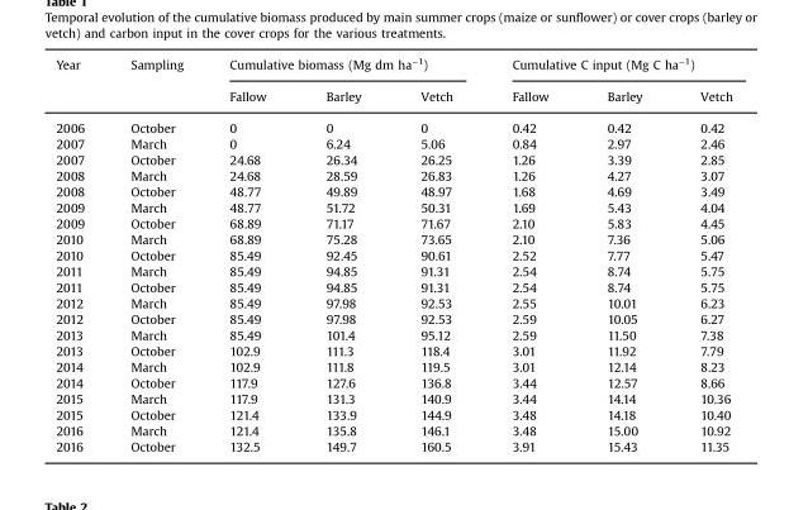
<table><thead><tr><td rowspan="2">Year</td><td rowspan="2">Sampling</td><td colspan="3">Cumulative biomass (Mg dm ha<sup>−1</sup>)</td><td colspan="3">Cumulative C input (Mg C ha<sup>−1</sup>)</td></tr><tr><td>Fallow</td><td>Barley</td><td>Vetch</td><td>Fallow</td><td>Barley</td><td>Vetch</td></tr></thead><tbody><tr><td>2006</td><td>October</td><td>0</td><td>0</td><td>0</td><td>0.42</td><td>0.42</td><td>0.42</td></tr><tr><td>2007</td><td>March</td><td>0</td><td>6.24</td><td>5.06</td><td>0.84</td><td>2.97</td><td>2.46</td></tr><tr><td>2007</td><td>October</td><td>24.68</td><td>26.34</td><td>26.25</td><td>1.26</td><td>3.39</td><td>2.85</td></tr><tr><td>2008</td><td>March</td><td>24.68</td><td>28.59</td><td>26.83</td><td>1.26</td><td>4.27</td><td>3.07</td></tr><tr><td>2008</td><td>October</td><td>48.77</td><td>49.89</td><td>48.97</td><td>1.68</td><td>4.69</td><td>3.49</td></tr><tr><td>2009</td><td>March</td><td>48.77</td><td>51.72</td><td>50.31</td><td>1.69</td><td>5.43</td><td>4.04</td></tr><tr><td>2009</td><td>October</td><td>68.89</td><td>71.17</td><td>71.67</td><td>2.10</td><td>5.83</td><td>4.45</td></tr><tr><td>2010</td><td>March</td><td>68.89</td><td>75.28</td><td>73.65</td><td>2.10</td><td>7.36</td><td>5.06</td></tr><tr><td>2010</td><td>October</td><td>85.49</td><td>92.45</td><td>90.61</td><td>2.52</td><td>7.77</td><td>5.47</td></tr><tr><td>2011</td><td>March</td><td>85.49</td><td>94.85</td><td>91.31</td><td>2.54</td><td>8.74</td><td>5.75</td></tr><tr><td>2011</td><td>October</td><td>85.49</td><td>94.85</td><td>91.31</td><td>2.54</td><td>8.74</td><td>5.75</td></tr><tr><td>2012</td><td>March</td><td>85.49</td><td>97.98</td><td>92.53</td><td>2.55</td><td>10.01</td><td>6.23</td></tr><tr><td>2012</td><td>October</td><td>85.49</td><td>97.98</td><td>92.53</td><td>2.59</td><td>10.05</td><td>6.27</td></tr><tr><td>2013</td><td>March</td><td>85.49</td><td>101.4</td><td>95.12</td><td>2.59</td><td>11.50</td><td>7.38</td></tr><tr><td>2013</td><td>October</td><td>102.9</td><td>111.3</td><td>118.4</td><td>3.01</td><td>11.92</td><td>7.79</td></tr><tr><td>2014</td><td>March</td><td>102.9</td><td>111.8</td><td>119.5</td><td>3.01</td><td>12.14</td><td>8.23</td></tr><tr><td>2014</td><td>October</td><td>117.9</td><td>127.6</td><td>136.8</td><td>3.44</td><td>12.57</td><td>8.66</td></tr><tr><td>2015</td><td>March</td><td>117.9</td><td>131.3</td><td>140.9</td><td>3.44</td><td>14.14</td><td>10.36</td></tr><tr><td>2015</td><td>October</td><td>121.4</td><td>133.9</td><td>144.9</td><td>3.48</td><td>14.18</td><td>10.40</td></tr><tr><td>2016</td><td>March</td><td>121.4</td><td>135.8</td><td>146.1</td><td>3.48</td><td>15.00</td><td>10.92</td></tr><tr><td>2016</td><td>October</td><td>132.5</td><td>149.7</td><td>160.5</td><td>3.91</td><td>15.43</td><td>11.35</td></tr></tbody></table>